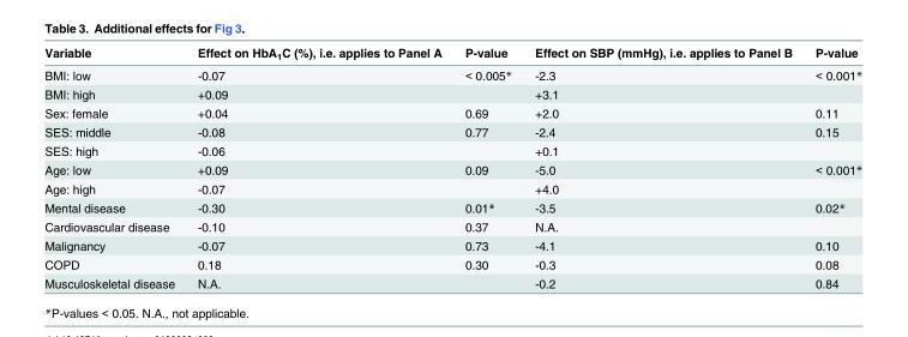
<table><thead><tr><td>Variable</td><td>Effect on HbA<sub>1</sub>C (%), i.e. applies to Panel A</td><td>P-value</td><td>Effect on SBP (mmHg), i.e. applies to Panel B</td><td>P-value</td></tr></thead><tbody><tr><td>BMI: low</td><td>-0.07</td><td>&lt; 0.005*</td><td>-2.3</td><td>&lt; 0.001*</td></tr><tr><td>BMI: high</td><td>+0.09</td><td></td><td>+3.1</td><td></td></tr><tr><td>Sex: female</td><td>+0.04</td><td>0.69</td><td>+2.0</td><td>0.11</td></tr><tr><td>SES: middle</td><td>-0.08</td><td>0.77</td><td>-2.4</td><td>0.15</td></tr><tr><td>SES: high</td><td>-0.06</td><td></td><td>+0.1</td><td></td></tr><tr><td>Age: low</td><td>+0.09</td><td>0.09</td><td>-5.0</td><td>&lt; 0.001*</td></tr><tr><td>Age: high</td><td>-0.07</td><td></td><td>+4.0</td><td></td></tr><tr><td>Mental disease</td><td>-0.30</td><td>0.01*</td><td>-3.5</td><td>0.02*</td></tr><tr><td>Cardiovascular disease</td><td>-0.10</td><td>0.37</td><td>N.A.</td><td></td></tr><tr><td>Malignancy</td><td>-0.07</td><td>0.73</td><td>-4.1</td><td>0.10</td></tr><tr><td>COPD</td><td>0.18</td><td>0.30</td><td>-0.3</td><td>0.08</td></tr><tr><td>Musculoskeletal disease</td><td>N.A.</td><td></td><td>-0.2</td><td>0.84</td></tr></tbody></table>